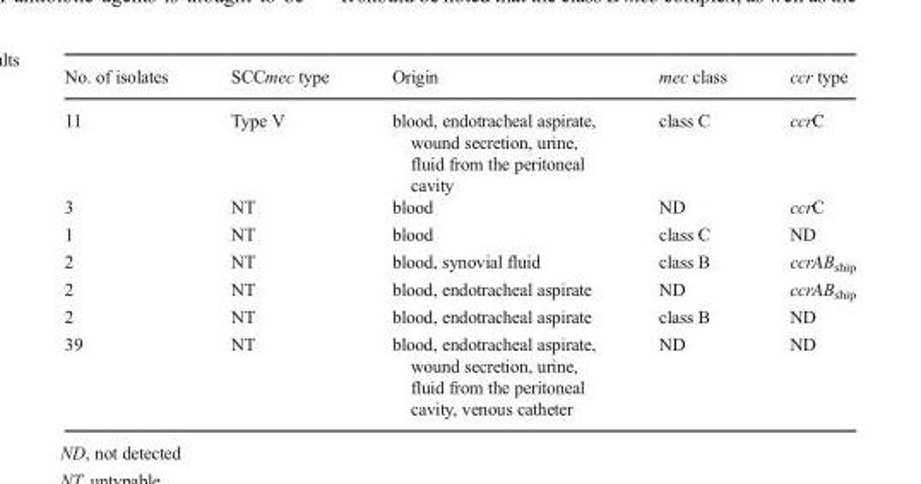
<table><thead><tr><td>No. of isolates</td><td>SCCmec type</td><td>Origin</td><td>mec class</td><td>ccr type</td></tr></thead><tbody><tr><td>11</td><td>Type V</td><td>blood, endotracheal aspirate, wound secretion, urine, fluid from the peritoneal cavity</td><td>class C</td><td>ccrC</td></tr><tr><td>3</td><td>NT</td><td>blood</td><td>ND</td><td>ccrC</td></tr><tr><td>1</td><td>NT</td><td>blood</td><td>class C</td><td>ND</td></tr><tr><td>2</td><td>NT</td><td>blood, synovial fluid</td><td>class B</td><td>ccrAB<sub>ship</sub></td></tr><tr><td>2</td><td>NT</td><td>blood, endotracheal aspirate</td><td>ND</td><td>ccrAB<sub>ship</sub></td></tr><tr><td>2</td><td>NT</td><td>blood, endotracheal aspirate</td><td>class B</td><td>ND</td></tr><tr><td>39</td><td>NT</td><td>blood, endotracheal aspirate, wound secretion, urine, fluid from the peritoneal cavity, venous catheter</td><td>ND</td><td>ND</td></tr></tbody></table>